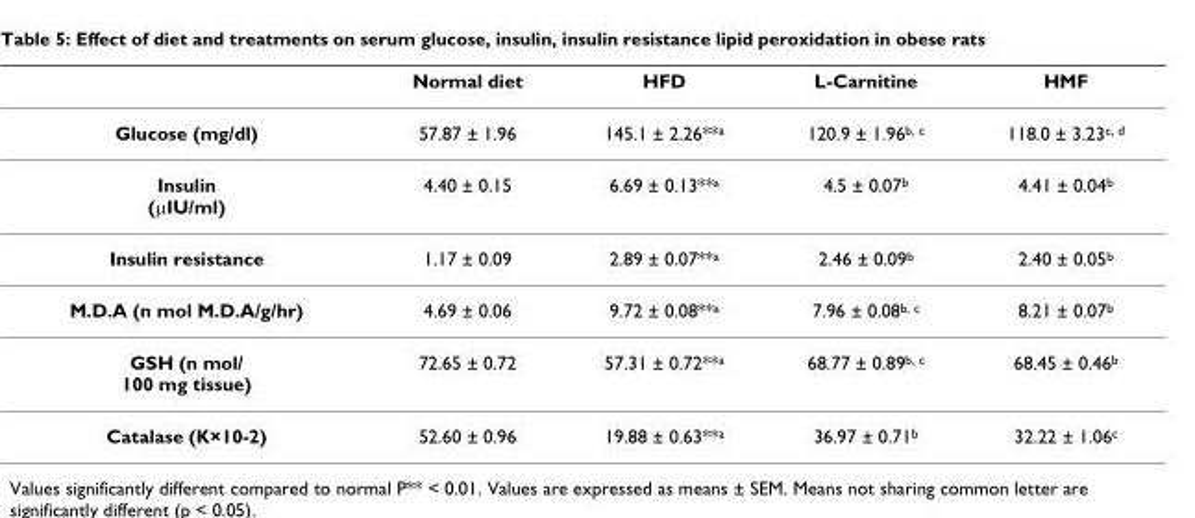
<table><thead><tr><td></td><td>Normal diet</td><td>HFD</td><td>L-Carnitine</td><td>HMF</td></tr></thead><tbody><tr><td>Glucose (mg/dl)</td><td>57.87 ± 1.96</td><td>145.1 ± 2.26**<sup>a</sup></td><td>120.9 ± 1.96<sup>b, c</sup></td><td>118.0 ± 3.23<sup>c, d</sup></td></tr><tr><td>Insulin (μIU/ml)</td><td>4.40 ± 0.15</td><td>6.69 ± 0.13**<sup>a</sup></td><td>4.5 ± 0.07<sup>b</sup></td><td>4.41 ± 0.04<sup>b</sup></td></tr><tr><td>Insulin resistance</td><td>1.17 ± 0.09</td><td>2.89 ± 0.07**<sup>a</sup></td><td>2.46 ± 0.09<sup>b</sup></td><td>2.40 ± 0.05<sup>b</sup></td></tr><tr><td>M.D.A (n mol M.D.A/g/hr)</td><td>4.69 ± 0.06</td><td>9.72 ± 0.08**<sup>a</sup></td><td>7.96 ± 0.08<sup>b, c</sup></td><td>8.21 ± 0.07<sup>b</sup></td></tr><tr><td>GSH (n mol/ 100 mg tissue)</td><td>72.65 ± 0.72</td><td>57.31 ± 0.72**<sup>a</sup></td><td>68.77 ± 0.89<sup>b, c</sup></td><td>68.45 ± 0.46<sup>b</sup></td></tr><tr><td>Catalase (K×10-2)</td><td>52.60 ± 0.96</td><td>19.88 ± 0.63**<sup>a</sup></td><td>36.97 ± 0.71<sup>b</sup></td><td>32.22 ± 1.06<sup>c</sup></td></tr></tbody></table>